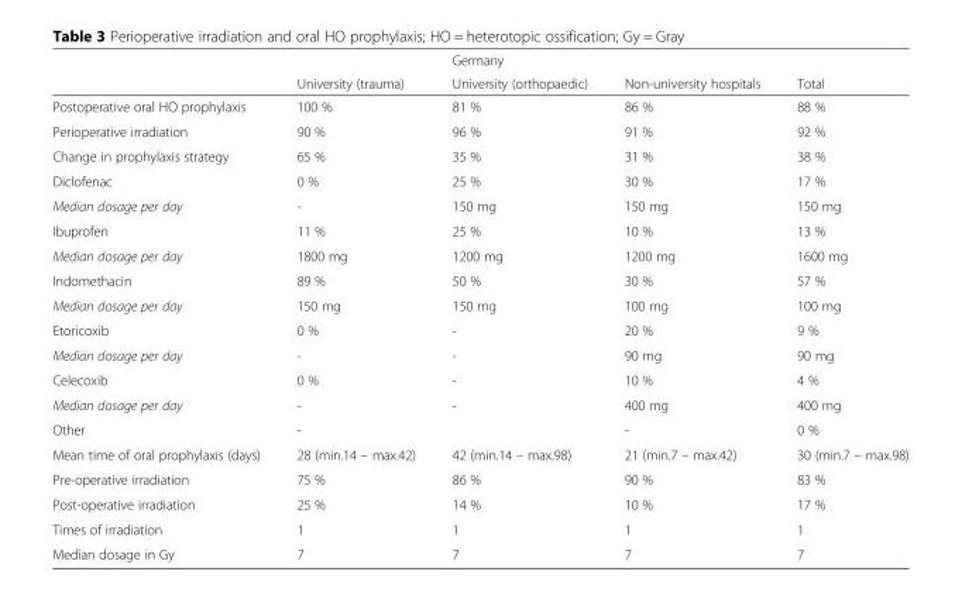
<table><thead><tr><td rowspan="2"></td><td rowspan="2">University (trauma)</td><td rowspan="2">Germany University (orthopaedic)</td><td rowspan="2">Non-university hospitals</td><td rowspan="2">Total</td></tr><tr></tr></thead><tbody><tr><td>Postoperative oral HO prophylaxis</td><td>100 %</td><td>81 %</td><td>86 %</td><td>88 %</td></tr><tr><td>Perioperative irradiation</td><td>90 %</td><td>96 %</td><td>91 %</td><td>92 %</td></tr><tr><td>Change in prophylaxis strategy</td><td>65 %</td><td>35 %</td><td>31 %</td><td>38 %</td></tr><tr><td>Diclofenac</td><td>0 %</td><td>25 %</td><td>30 %</td><td>17 %</td></tr><tr><td>Median dosage per day</td><td>-</td><td>150 mg</td><td>150 mg</td><td>150 mg</td></tr><tr><td>Ibuprofen</td><td>11 %</td><td>25 %</td><td>10 %</td><td>13 %</td></tr><tr><td>Median dosage per day</td><td>1800 mg</td><td>1200 mg</td><td>1200 mg</td><td>1600 mg</td></tr><tr><td>Indomethacin</td><td>89 %</td><td>50 %</td><td>30 %</td><td>57 %</td></tr><tr><td>Median dosage per day</td><td>150 mg</td><td>150 mg</td><td>100 mg</td><td>100 mg</td></tr><tr><td>Etoricoxib</td><td>0 %</td><td>-</td><td>20 %</td><td>9 %</td></tr><tr><td>Median dosage per day</td><td>-</td><td>-</td><td>90 mg</td><td>90 mg</td></tr><tr><td>Celecoxib</td><td>0 %</td><td>-</td><td>10 %</td><td>4 %</td></tr><tr><td>Median dosage per day</td><td>-</td><td>-</td><td>400 mg</td><td>400 mg</td></tr><tr><td>Other</td><td>-</td><td></td><td>-</td><td>0 %</td></tr><tr><td>Mean time of oral prophylaxis (days)</td><td>28 (min.14 – max.42)</td><td>42 (min.14 – max.98)</td><td>21 (min.7 – max.42)</td><td>30 (min.7 – max.98)</td></tr><tr><td>Pre-operative irradiation</td><td>75 %</td><td>86 %</td><td>90 %</td><td>83 %</td></tr><tr><td>Post-operative irradiation</td><td>25 %</td><td>14 %</td><td>10 %</td><td>17 %</td></tr><tr><td>Times of irradiation</td><td>1</td><td>1</td><td>1</td><td>1</td></tr><tr><td>Median dosage in Gy</td><td>7</td><td>7</td><td>7</td><td>7</td></tr></tbody></table>